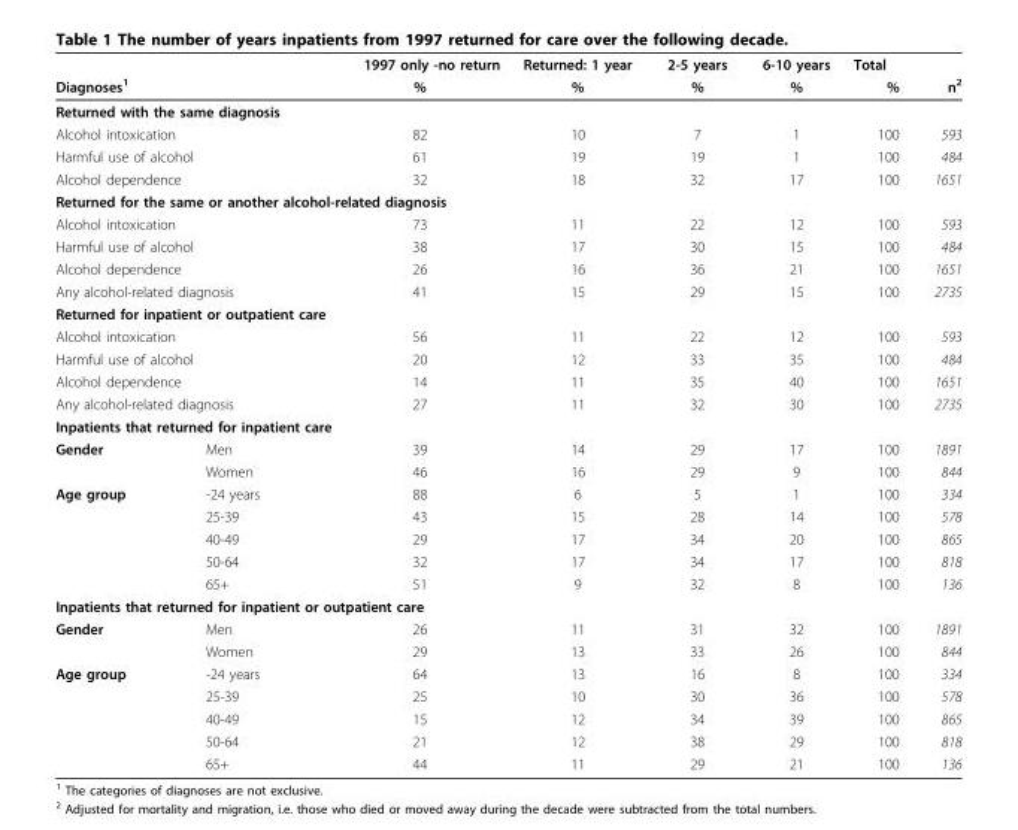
<table><thead><tr><td></td><td></td><td rowspan="2">1997 only -no return %</td><td rowspan="2">Returned: 1 year %</td><td rowspan="2">2-5 years %</td><td rowspan="2">6-10 years %</td><td colspan="2">Total</td></tr><tr><td colspan="2">Diagnoses<sup>1</sup></td><td>%</td><td>n<sup>2</sup></td></tr></thead><tbody><tr><td colspan="8">Returned with the same diagnosis</td></tr><tr><td colspan="2">Alcohol intoxication</td><td>82</td><td>10</td><td>7</td><td>1</td><td>100</td><td>593</td></tr><tr><td colspan="2">Harmful use of alcohol</td><td>61</td><td>19</td><td>19</td><td>1</td><td>100</td><td>484</td></tr><tr><td colspan="2">Alcohol dependence</td><td>32</td><td>18</td><td>32</td><td>17</td><td>100</td><td>1651</td></tr><tr><td colspan="8">Returned for the same or another alcohol-related diagnosis</td></tr><tr><td colspan="2">Alcohol intoxication</td><td>73</td><td>11</td><td>22</td><td>12</td><td>100</td><td>593</td></tr><tr><td colspan="2">Harmful use of alcohol</td><td>38</td><td>17</td><td>30</td><td>15</td><td>100</td><td>484</td></tr><tr><td colspan="2">Alcohol dependence</td><td>26</td><td>16</td><td>36</td><td>21</td><td>100</td><td>1651</td></tr><tr><td colspan="2">Any alcohol-related diagnosis</td><td>41</td><td>15</td><td>29</td><td>15</td><td>100</td><td>2735</td></tr><tr><td colspan="8">Returned for inpatient or outpatient care</td></tr><tr><td colspan="2">Alcohol intoxication</td><td>56</td><td>11</td><td>22</td><td>12</td><td>100</td><td>593</td></tr><tr><td colspan="2">Harmful use of alcohol</td><td>20</td><td>12</td><td>33</td><td>35</td><td>100</td><td>484</td></tr><tr><td colspan="2">Alcohol dependence</td><td>14</td><td>11</td><td>35</td><td>40</td><td>100</td><td>1651</td></tr><tr><td colspan="2">Any alcohol-related diagnosis</td><td>27</td><td>11</td><td>32</td><td>30</td><td>100</td><td>2735</td></tr><tr><td colspan="8">Inpatients that returned for inpatient care</td></tr><tr><td rowspan="2">Gender</td><td>Men</td><td>39</td><td>14</td><td>29</td><td>17</td><td>100</td><td>1891</td></tr><tr><td>Women</td><td>46</td><td>16</td><td>29</td><td>9</td><td>100</td><td>844</td></tr><tr><td rowspan="5">Age group</td><td>-24 years</td><td>88</td><td>6</td><td>5</td><td>1</td><td>100</td><td>334</td></tr><tr><td>25-39</td><td>43</td><td>15</td><td>28</td><td>14</td><td>100</td><td>578</td></tr><tr><td>40-49</td><td>29</td><td>17</td><td>34</td><td>20</td><td>100</td><td>865</td></tr><tr><td>50-64</td><td>32</td><td>17</td><td>34</td><td>17</td><td>100</td><td>818</td></tr><tr><td>65+</td><td>51</td><td>9</td><td>32</td><td>8</td><td>100</td><td>136</td></tr><tr><td colspan="8">Inpatients that returned for inpatient or outpatient care</td></tr><tr><td rowspan="2">Gender</td><td>Men</td><td>26</td><td>11</td><td>31</td><td>32</td><td>100</td><td>1891</td></tr><tr><td>Women</td><td>29</td><td>13</td><td>33</td><td>26</td><td>100</td><td>844</td></tr><tr><td rowspan="5">Age group</td><td>-24 years</td><td>64</td><td>13</td><td>16</td><td>8</td><td>100</td><td>334</td></tr><tr><td>25-39</td><td>25</td><td>10</td><td>30</td><td>36</td><td>100</td><td>578</td></tr><tr><td>40-49</td><td>15</td><td>12</td><td>34</td><td>39</td><td>100</td><td>865</td></tr><tr><td>50-64</td><td>21</td><td>12</td><td>38</td><td>29</td><td>100</td><td>818</td></tr><tr><td>65+</td><td>44</td><td>11</td><td>29</td><td>21</td><td>100</td><td>136</td></tr></tbody></table>